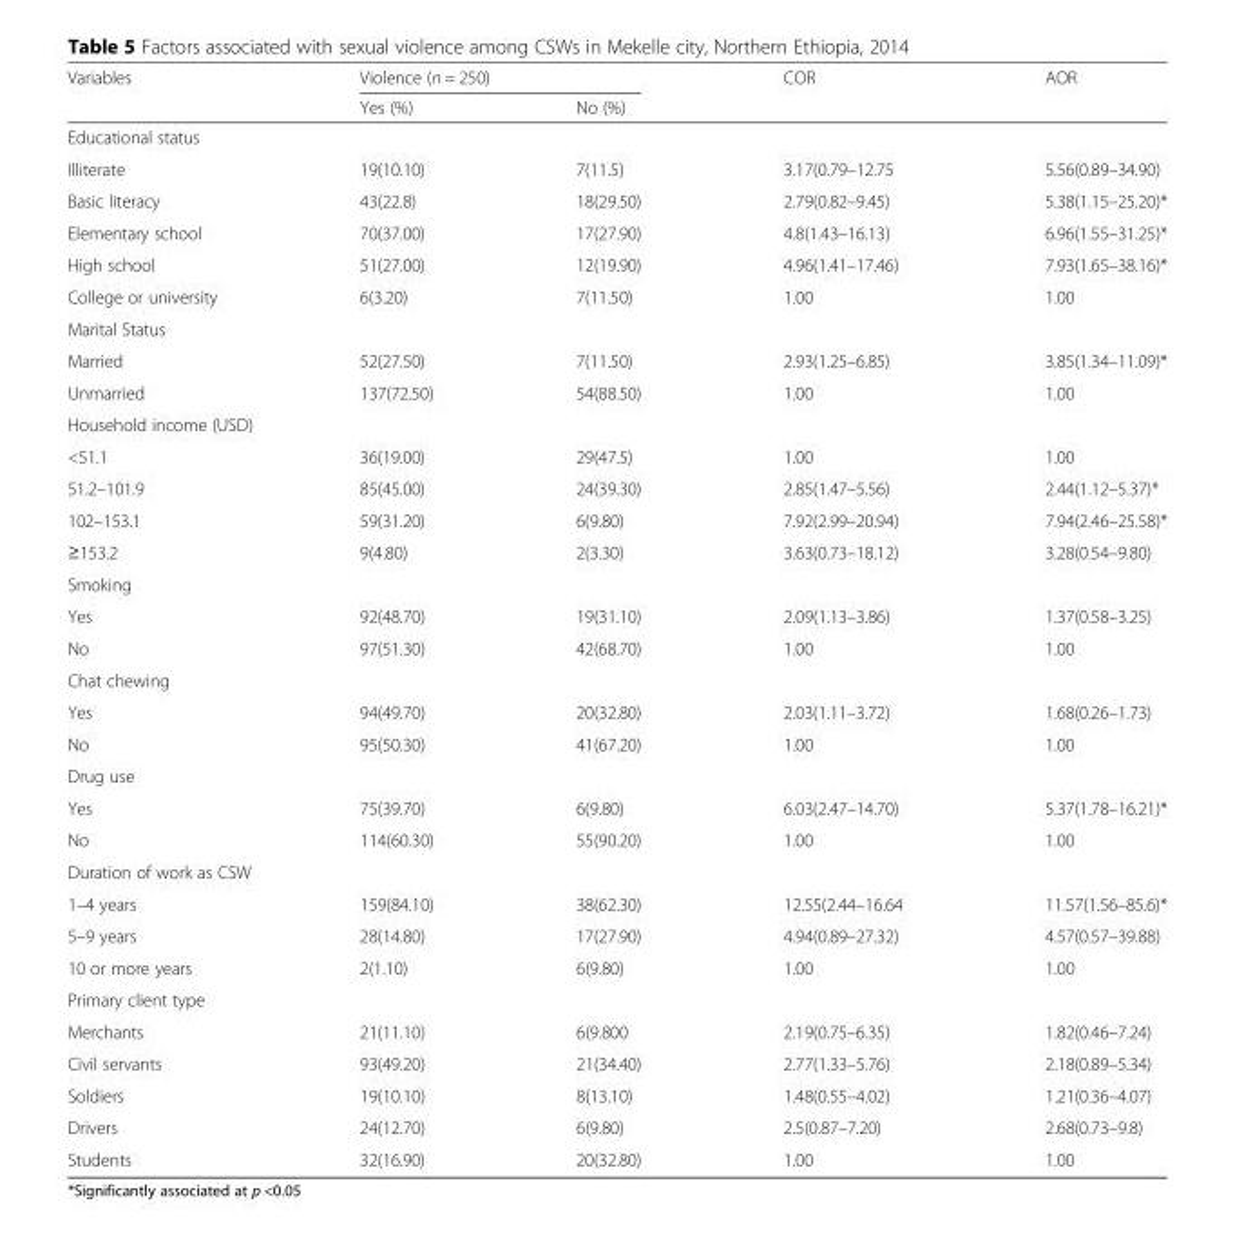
<table><thead><tr><td rowspan="2">Variables</td><td colspan="2">Violence (n = 250)</td><td rowspan="2">COR</td><td rowspan="2">AOR</td></tr><tr><td>Yes (%)</td><td>No (%)</td></tr></thead><tbody><tr><td colspan="5">Educational status</td></tr><tr><td>Illiterate</td><td>19(10.10)</td><td>7(11.5)</td><td>3.17(0.79–12.75</td><td>5.56(0.89–34.90)</td></tr><tr><td>Basic literacy</td><td>43(22.8)</td><td>18(29.50)</td><td>2.79(0.82–9.45)</td><td>5.38(1.15–25.20)*</td></tr><tr><td>Elementary school</td><td>70(37.00)</td><td>17(27.90)</td><td>4.8(1.43–16.13)</td><td>6.96(1.55–31.25)*</td></tr><tr><td>High school</td><td>51(27.00)</td><td>12(19.90)</td><td>4.96(1.41–17.46)</td><td>7.93(1.65–38.16)*</td></tr><tr><td>College or university</td><td>6(3.20)</td><td>7(11.50)</td><td>1.00</td><td>1.00</td></tr><tr><td colspan="5">Marital Status</td></tr><tr><td>Married</td><td>52(27.50)</td><td>7(11.50)</td><td>2.93(1.25–6.85)</td><td>3.85(1.34–11.09)*</td></tr><tr><td>Unmarried</td><td>137(72.50)</td><td>54(88.50)</td><td>1.00</td><td>1.00</td></tr><tr><td colspan="5">Household income (USD)</td></tr><tr><td>&lt;51.1</td><td>36(19.00)</td><td>29(47.5)</td><td>1.00</td><td>1.00</td></tr><tr><td>51.2–101.9</td><td>85(45.00)</td><td>24(39.30)</td><td>2.85(1.47–5.56)</td><td>2.44(1.12–5.37)*</td></tr><tr><td>102–153.1</td><td>59(31.20)</td><td>6(9.80)</td><td>7.92(2.99–20.94)</td><td>7.94(2.46–25.58)*</td></tr><tr><td>≥153.2</td><td>9(4.80)</td><td>2(3.30)</td><td>3.63(0.73–18.12)</td><td>3.28(0.54–9.80)</td></tr><tr><td colspan="5">Smoking</td></tr><tr><td>Yes</td><td>92(48.70)</td><td>19(31.10)</td><td>2.09(1.13–3.86)</td><td>1.37(0.58–3.25)</td></tr><tr><td>No</td><td>97(51.30)</td><td>42(68.70)</td><td>1.00</td><td>1.00</td></tr><tr><td colspan="5">Chat chewing</td></tr><tr><td>Yes</td><td>94(49.70)</td><td>20(32.80)</td><td>2.03(1.11–3.72)</td><td>1.68(0.26–1.73)</td></tr><tr><td>No</td><td>95(50.30)</td><td>41(67.20)</td><td>1.00</td><td>1.00</td></tr><tr><td colspan="5">Drug use</td></tr><tr><td>Yes</td><td>75(39.70)</td><td>6(9.80)</td><td>6.03(2.47–14.70)</td><td>5.37(1.78–16.21)*</td></tr><tr><td>No</td><td>114(60.30)</td><td>55(90.20)</td><td>1.00</td><td>1.00</td></tr><tr><td colspan="5">Duration of work as CSW</td></tr><tr><td>1–4 years</td><td>159(84.10)</td><td>38(62.30)</td><td>12.55(2.44–16.64</td><td>11.57(1.56–85.6)*</td></tr><tr><td>5–9 years</td><td>28(14.80)</td><td>17(27.90)</td><td>4.94(0.89–27.32)</td><td>4.57(0.57–39.88)</td></tr><tr><td>10 or more years</td><td>2(1.10)</td><td>6(9.80)</td><td>1.00</td><td>1.00</td></tr><tr><td colspan="5">Primary client type</td></tr><tr><td>Merchants</td><td>21(11.10)</td><td>6(9.800</td><td>2.19(0.75–6.35)</td><td>1.82(0.46–7.24)</td></tr><tr><td>Civil servants</td><td>93(49.20)</td><td>21(34.40)</td><td>2.77(1.33–5.76)</td><td>2.18(0.89–5.34)</td></tr><tr><td>Soldiers</td><td>19(10.10)</td><td>8(13.10)</td><td>1.48(0.55–4.02)</td><td>1.21(0.36–4.07)</td></tr><tr><td>Drivers</td><td>24(12.70)</td><td>6(9.80)</td><td>2.5(0.87–7.20)</td><td>2.68(0.73–9.8)</td></tr><tr><td>Students</td><td>32(16.90)</td><td>20(32.80)</td><td>1.00</td><td>1.00</td></tr></tbody></table>